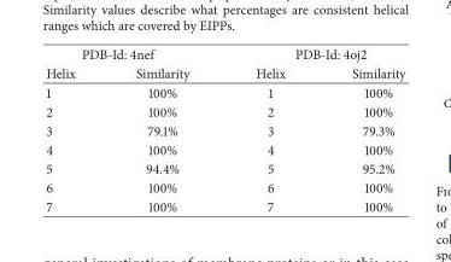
<table><thead><tr><td colspan="2">PDB-Id: 4nef</td><td colspan="2">PDB-Id: 4oj2</td></tr><tr><td>Helix</td><td>Similarity</td><td>Helix</td><td>Similarity</td></tr></thead><tbody><tr><td>1</td><td>100%</td><td>1</td><td>100%</td></tr><tr><td>2</td><td>100%</td><td>2</td><td>100%</td></tr><tr><td>3</td><td>79.1%</td><td>3</td><td>79.3%</td></tr><tr><td>4</td><td>100%</td><td>4</td><td>100%</td></tr><tr><td>5</td><td>94.4%</td><td>5</td><td>95.2%</td></tr><tr><td>6</td><td>100%</td><td>6</td><td>100%</td></tr><tr><td>7</td><td>100%</td><td>7</td><td>100%</td></tr></tbody></table>